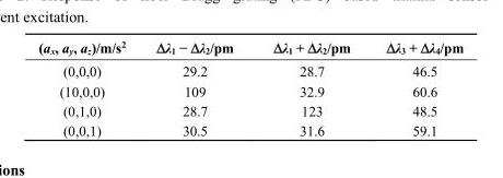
<table><thead><tr><td>(a<sub>x</sub>, a<sub>y</sub>, a<sub>z</sub>)/m/s<sup>2</sup></td><td>Δλ<sub>1</sub> − Δλ<sub>2</sub>/pm</td><td>Δλ<sub>1</sub> + Δλ<sub>2</sub>/pm</td><td>Δλ<sub>3</sub> + Δλ<sub>4</sub>/pm</td></tr></thead><tbody><tr><td>(0,0,0)</td><td>29.2</td><td>28.7</td><td>46.5</td></tr><tr><td>(10,0,0)</td><td>109</td><td>32.9</td><td>60.6</td></tr><tr><td>(0,1,0)</td><td>28.7</td><td>123</td><td>48.5</td></tr><tr><td>(0,0,1)</td><td>30.5</td><td>31.6</td><td>59.1</td></tr></tbody></table>